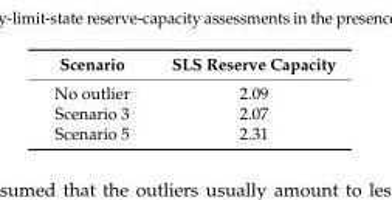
<table><thead><tr><td>Scenario</td><td>SLS Reserve Capacity</td></tr></thead><tbody><tr><td>No outlier</td><td>2.09</td></tr><tr><td>Scenario 3</td><td>2.07</td></tr><tr><td>Scenario 5</td><td>2.31</td></tr></tbody></table>